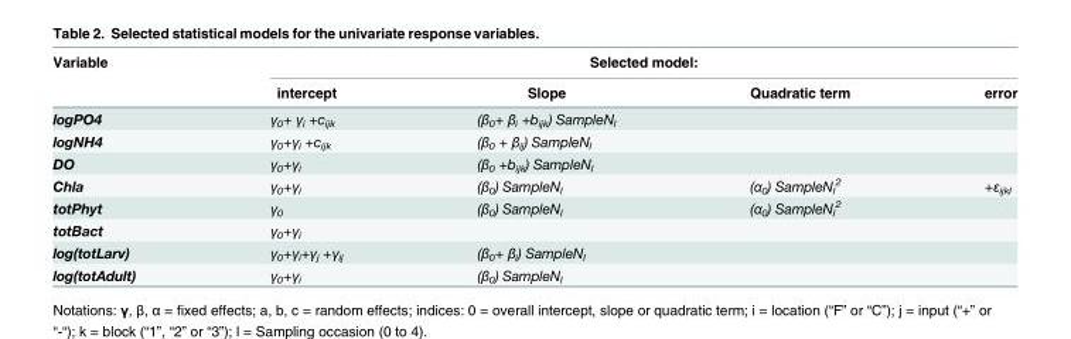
<table><thead><tr><td rowspan="2">Variable</td><td colspan="4">Selected model:</td></tr><tr><td>intercept</td><td>Slope</td><td>Quadratic term</td><td>error</td></tr></thead><tbody><tr><td>logPO4</td><td>γ<sub>0</sub>+ γ<sub>i</sub> +c<sub>ijk</sub></td><td>(β<sub>0</sub>+ β<sub>i</sub> +b<sub>ijk</sub>) SampleN<sub>l</sub></td><td></td><td></td></tr><tr><td>logNH4</td><td>γ<sub>0</sub>+γ<sub>i</sub> +c<sub>ijk</sub></td><td>(β<sub>0</sub> + β<sub>ij</sub>) SampleN<sub>l</sub></td><td></td><td></td></tr><tr><td>DO</td><td>γ<sub>0</sub>+γ<sub>i</sub></td><td>(β<sub>0</sub> +b<sub>ijk</sub>) SampleN<sub>l</sub></td><td></td><td></td></tr><tr><td>Chla</td><td>γ<sub>0</sub>+γ<sub>i</sub></td><td>(β<sub>0</sub>) SampleN<sub>l</sub></td><td>(α<sub>0</sub>) SampleN<sub>l</sub> <sup>2</sup></td><td>+ε<sub>ijkl</sub></td></tr><tr><td>totPhyt</td><td>γ<sub>0</sub></td><td>(β<sub>0</sub>) SampleN<sub>l</sub></td><td>(α<sub>0</sub>) SampleN<sub>l</sub> <sup>2</sup></td><td></td></tr><tr><td>totBact</td><td>γ<sub>0</sub>+γ<sub>i</sub></td><td></td><td></td><td></td></tr><tr><td>log(totLarv)</td><td>γ<sub>0</sub>+γ<sub>i</sub>+γ<sub>j</sub> +γ<sub>ij</sub></td><td>(β<sub>0</sub>+ β<sub>i</sub>) SampleN<sub>l</sub></td><td></td><td></td></tr><tr><td>log(totAdult)</td><td>γ<sub>0</sub>+γ<sub>i</sub></td><td>(β<sub>0</sub>) SampleN<sub>l</sub></td><td></td><td></td></tr></tbody></table>